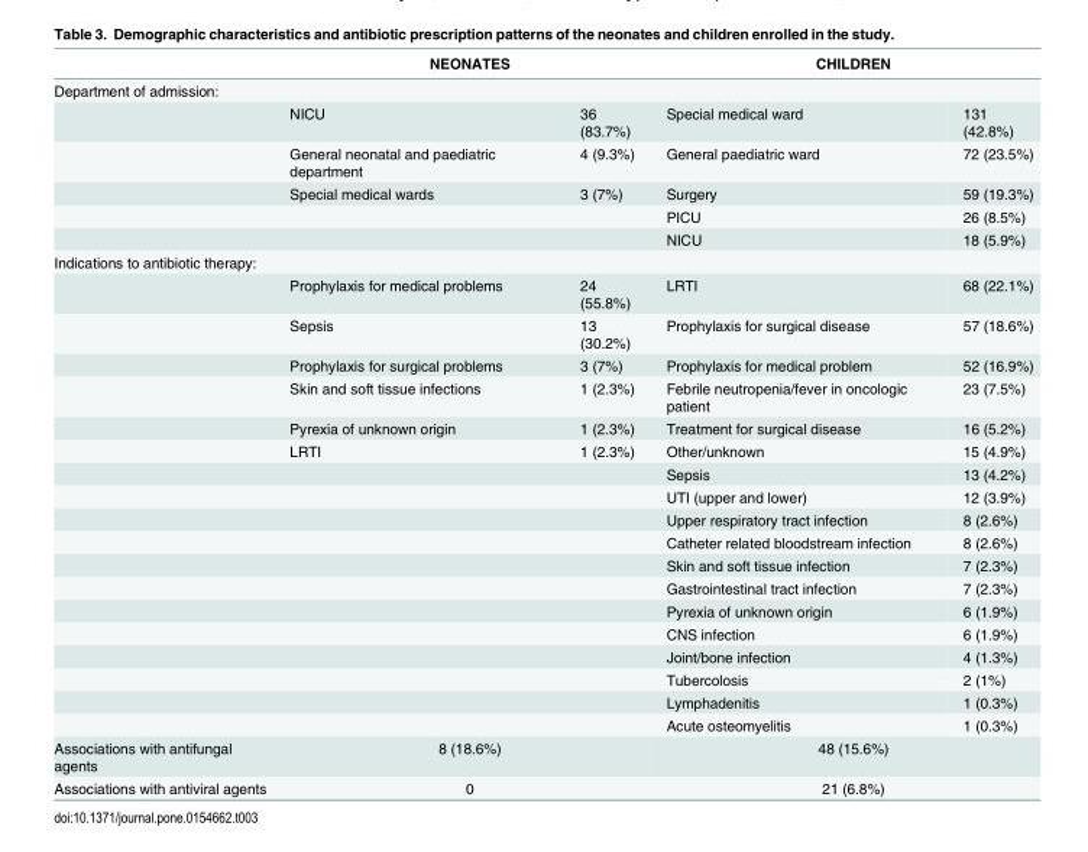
<table><thead><tr><td rowspan="2">Department of admission:</td><td colspan="2">NEONATES</td><td colspan="2">CHILDREN</td></tr><tr><td></td><td></td><td></td><td></td></tr></thead><tbody><tr><td></td><td>NICU</td><td>36 (83.7%)</td><td>Special medical ward</td><td>131 (42.8%)</td></tr><tr><td></td><td>General neonatal and paediatric department</td><td>4 (9.3%)</td><td>General paediatric ward</td><td>72 (23.5%)</td></tr><tr><td></td><td>Special medical wards</td><td>3 (7%)</td><td>Surgery</td><td>59 (19.3%)</td></tr><tr><td></td><td></td><td></td><td>PICU</td><td>26 (8.5%)</td></tr><tr><td></td><td></td><td></td><td>NICU</td><td>18 (5.9%)</td></tr><tr><td colspan="5">Indications to antibiotic therapy:</td></tr><tr><td></td><td>Prophylaxis for medical problems</td><td>24 (55.8%)</td><td>LRTI</td><td>68 (22.1%)</td></tr><tr><td></td><td>Sepsis</td><td>13 (30.2%)</td><td>Prophylaxis for surgical disease</td><td>57 (18.6%)</td></tr><tr><td></td><td>Prophylaxis for surgical problems</td><td>3 (7%)</td><td>Prophylaxis for medical problem</td><td>52 (16.9%)</td></tr><tr><td></td><td>Skin and soft tissue infections</td><td>1 (2.3%)</td><td>Febrile neutropenia/fever in oncologic patient</td><td>23 (7.5%)</td></tr><tr><td></td><td>Pyrexia of unknown origin</td><td>1 (2.3%)</td><td>Treatment for surgical disease</td><td>16 (5.2%)</td></tr><tr><td></td><td>LRTI</td><td>1 (2.3%)</td><td>Other/unknown</td><td>15 (4.9%)</td></tr><tr><td></td><td></td><td></td><td>Sepsis</td><td>13 (4.2%)</td></tr><tr><td></td><td></td><td></td><td>UTI (upper and lower)</td><td>12 (3.9%)</td></tr><tr><td></td><td></td><td></td><td>Upper respiratory tract infection</td><td>8 (2.6%)</td></tr><tr><td></td><td></td><td></td><td>Catheter related bloodstream infection</td><td>8 (2.6%)</td></tr><tr><td></td><td></td><td></td><td>Skin and soft tissue infection</td><td>7 (2.3%)</td></tr><tr><td></td><td></td><td></td><td>Gastrointestinal tract infection</td><td>7 (2.3%)</td></tr><tr><td></td><td></td><td></td><td>Pyrexia of unknown origin</td><td>6 (1.9%)</td></tr><tr><td></td><td></td><td></td><td>CNS infection</td><td>6 (1.9%)</td></tr><tr><td></td><td></td><td></td><td>Joint/bone infection</td><td>4 (1.3%)</td></tr><tr><td></td><td></td><td></td><td>Tubercolosis</td><td>2 (1%)</td></tr><tr><td></td><td></td><td></td><td>Lymphadenitis</td><td>1 (0.3%)</td></tr><tr><td></td><td></td><td></td><td>Acute osteomyelitis</td><td>1 (0.3%)</td></tr><tr><td>Associations with antifungal agents</td><td colspan="2">8 (18.6%)</td><td colspan="2">48 (15.6%)</td></tr><tr><td>Associations with antiviral agents</td><td colspan="2">0</td><td colspan="2">21 (6.8%)</td></tr></tbody></table>